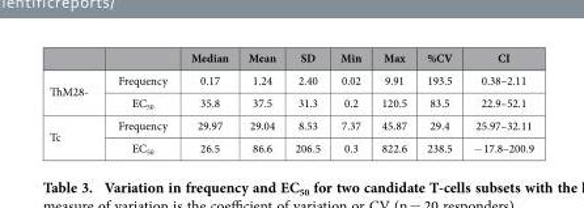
<table><thead><tr><td></td><td></td><td>Median</td><td>Mean</td><td>SD</td><td>Min</td><td>Max</td><td>%CV</td><td>CI</td></tr></thead><tbody><tr><td rowspan="2">ThM28-</td><td>Frequency</td><td>0.17</td><td>1.24</td><td>2.40</td><td>0.02</td><td>9.91</td><td>193.5</td><td>0.38–2.11</td></tr><tr><td>EC<sub>50</sub></td><td>35.8</td><td>37.5</td><td>31.3</td><td>0.2</td><td>120.5</td><td>83.5</td><td>22.9–52.1</td></tr><tr><td rowspan="2">Tc</td><td>Frequency</td><td>29.97</td><td>29.04</td><td>8.53</td><td>7.37</td><td>45.87</td><td>29.4</td><td>25.97–32.11</td></tr><tr><td>EC<sub>50</sub></td><td>26.5</td><td>86.6</td><td>206.5</td><td>0.3</td><td>822.6</td><td>238.5</td><td>− 17.8–200.9</td></tr></tbody></table>